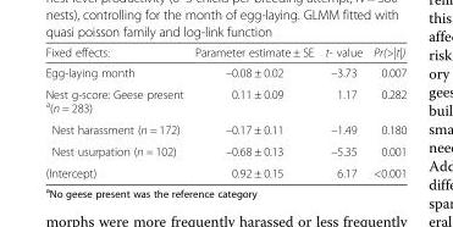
<table><thead><tr><td>Fixed effects:</td><td>Parameter estimate ± SE</td><td>t- value</td><td>Pr(&gt;|t|)</td></tr></thead><tbody><tr><td>Egg-laying month</td><td>–0.08 ± 0.02</td><td>–3.73</td><td>0.007</td></tr><tr><td>Nest g-score: Geese present <sup>a</sup>(n = 283)</td><td>0.11 ± 0.09</td><td>1.17</td><td>0.282</td></tr><tr><td>Nest harassment (n = 172)</td><td>–0.17 ± 0.11</td><td>–1.49</td><td>0.180</td></tr><tr><td>Nest usurpation (n = 102)</td><td>–0.68 ± 0.13</td><td>–5.35</td><td>0.001</td></tr><tr><td>(Intercept)</td><td>0.92 ± 0.15</td><td>6.17</td><td>&lt;0.001</td></tr></tbody></table>